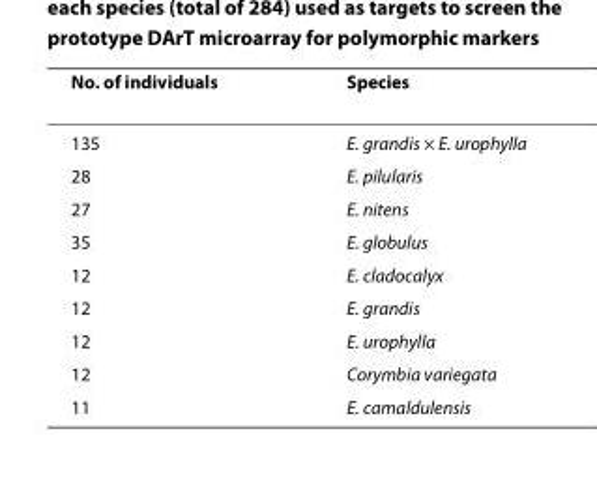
<table><thead><tr><td>No. of individuals</td><td>Species</td></tr></thead><tbody><tr><td>135</td><td>E. grandis × E. urophylla</td></tr><tr><td>28</td><td>E. pilularis</td></tr><tr><td>27</td><td>E. nitens</td></tr><tr><td>35</td><td>E. globulus</td></tr><tr><td>12</td><td>E. cladocalyx</td></tr><tr><td>12</td><td>E. grandis</td></tr><tr><td>12</td><td>E. urophylla</td></tr><tr><td>12</td><td>Corymbia variegata</td></tr><tr><td>11</td><td>E. camaldulensis</td></tr></tbody></table>